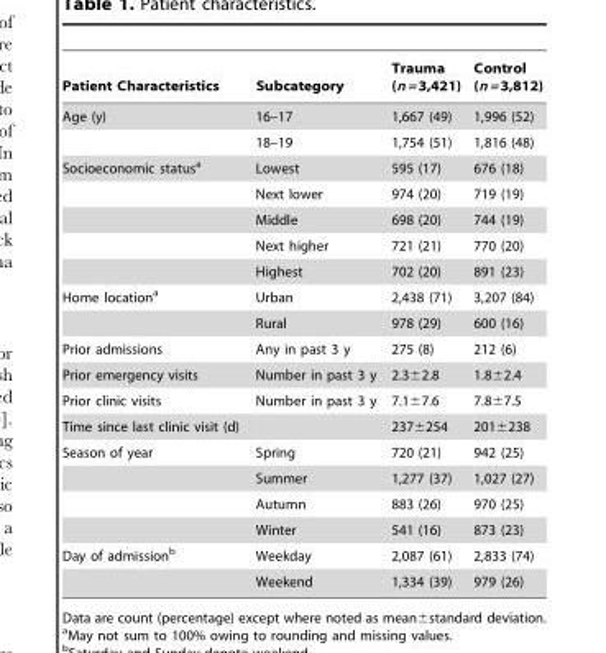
<table><thead><tr><td>Patient Characteristics</td><td>Subcategory</td><td>Trauma (n = 3,421)</td><td>Control (n = 3,812)</td></tr></thead><tbody><tr><td rowspan="2">Age (y)</td><td>16–17</td><td>1,667 (49)</td><td>1,996 (52)</td></tr><tr><td>18–19</td><td>1,754 (51)</td><td>1,816 (48)</td></tr><tr><td rowspan="5">Socioeconomic status<sup>a</sup></td><td>Lowest</td><td>595 (17)</td><td>676 (18)</td></tr><tr><td>Next lower</td><td>974 (20)</td><td>719 (19)</td></tr><tr><td>Middle</td><td>698 (20)</td><td>744 (19)</td></tr><tr><td>Next higher</td><td>721 (21)</td><td>770 (20)</td></tr><tr><td>Highest</td><td>702 (20)</td><td>891 (23)</td></tr><tr><td rowspan="2">Home location<sup>a</sup></td><td>Urban</td><td>2,438 (71)</td><td>3,207 (84)</td></tr><tr><td>Rural</td><td>978 (29)</td><td>600 (16)</td></tr><tr><td>Prior admissions</td><td>Any in past 3 y</td><td>275 (8)</td><td>212 (6)</td></tr><tr><td>Prior emergency visits</td><td>Number in past 3 y</td><td>2.3±2.8</td><td>1.8±2.4</td></tr><tr><td>Prior clinic visits</td><td>Number in past 3 y</td><td>7.1±7.6</td><td>7.8±7.5</td></tr><tr><td>Time since last clinic visit (d)</td><td></td><td>237±254</td><td>201±238</td></tr><tr><td rowspan="4">Season of year</td><td>Spring</td><td>720 (21)</td><td>942 (25)</td></tr><tr><td>Summer</td><td>1,277 (37)</td><td>1,027 (27)</td></tr><tr><td>Autumn</td><td>883 (26)</td><td>970 (25)</td></tr><tr><td>Winter</td><td>541 (16)</td><td>873 (23)</td></tr><tr><td rowspan="2">Day of admission<sup>b</sup></td><td>Weekday</td><td>2,087 (61)</td><td>2,833 (74)</td></tr><tr><td>Weekend</td><td>1,334 (39)</td><td>979 (26)</td></tr></tbody></table>